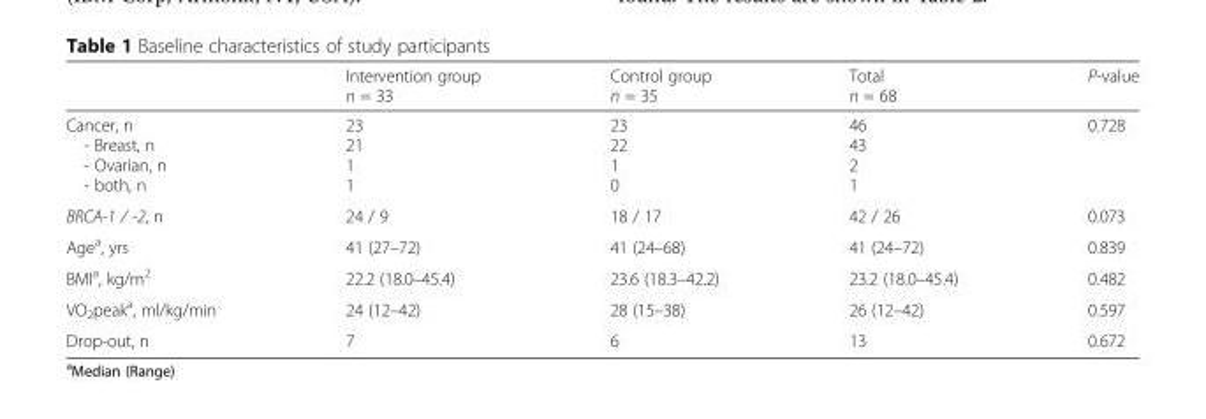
<table><thead><tr><td></td><td>Intervention group n = 33</td><td>Control group n = 35</td><td>Total n = 68</td><td>P-value</td></tr></thead><tbody><tr><td>Cancer, n - Breast, n - Ovarian, n - both, n</td><td>23 21 1 1</td><td>23 22 1 0</td><td>46 43 2 1</td><td>0.728</td></tr><tr><td>BRCA-1 / -2, n</td><td>24 / 9</td><td>18 / 17</td><td>42 / 26</td><td>0.073</td></tr><tr><td>Age<sup>a</sup>, yrs</td><td>41 (27–72)</td><td>41 (24–68)</td><td>41 (24–72)</td><td>0.839</td></tr><tr><td>BMI<sup>a</sup>, kg/m<sup>2</sup></td><td>22.2 (18.0–45.4)</td><td>23.6 (18.3–42.2)</td><td>23.2 (18.0–45.4)</td><td>0.482</td></tr><tr><td>VO<sub>2</sub>peak<sup>a</sup>, ml/kg/min</td><td>24 (12–42)</td><td>28 (15–38)</td><td>26 (12–42)</td><td>0.597</td></tr><tr><td>Drop-out, n</td><td>7</td><td>6</td><td>13</td><td>0.672</td></tr></tbody></table>